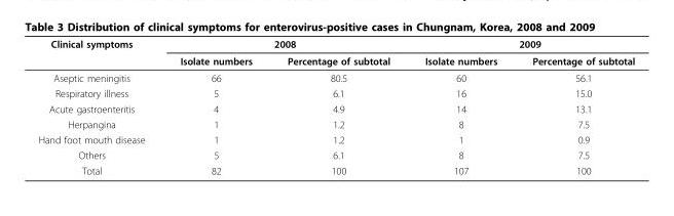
<table><thead><tr><td rowspan="2">Clinical symptoms</td><td colspan="2">2008</td><td colspan="2">2009</td></tr><tr><td>Isolate numbers</td><td>Percentage of subtotal</td><td>Isolate numbers</td><td>Percentage of subtotal</td></tr></thead><tbody><tr><td>Aseptic meningitis</td><td>66</td><td>80.5</td><td>60</td><td>56.1</td></tr><tr><td>Respiratory illness</td><td>5</td><td>6.1</td><td>16</td><td>15.0</td></tr><tr><td>Acute gastroenteritis</td><td>4</td><td>4.9</td><td>14</td><td>13.1</td></tr><tr><td>Herpangina</td><td>1</td><td>1.2</td><td>8</td><td>7.5</td></tr><tr><td>Hand foot mouth disease</td><td>1</td><td>1.2</td><td>1</td><td>0.9</td></tr><tr><td>Others</td><td>5</td><td>6.1</td><td>8</td><td>7.5</td></tr><tr><td>Total</td><td>82</td><td>100</td><td>107</td><td>100</td></tr></tbody></table>